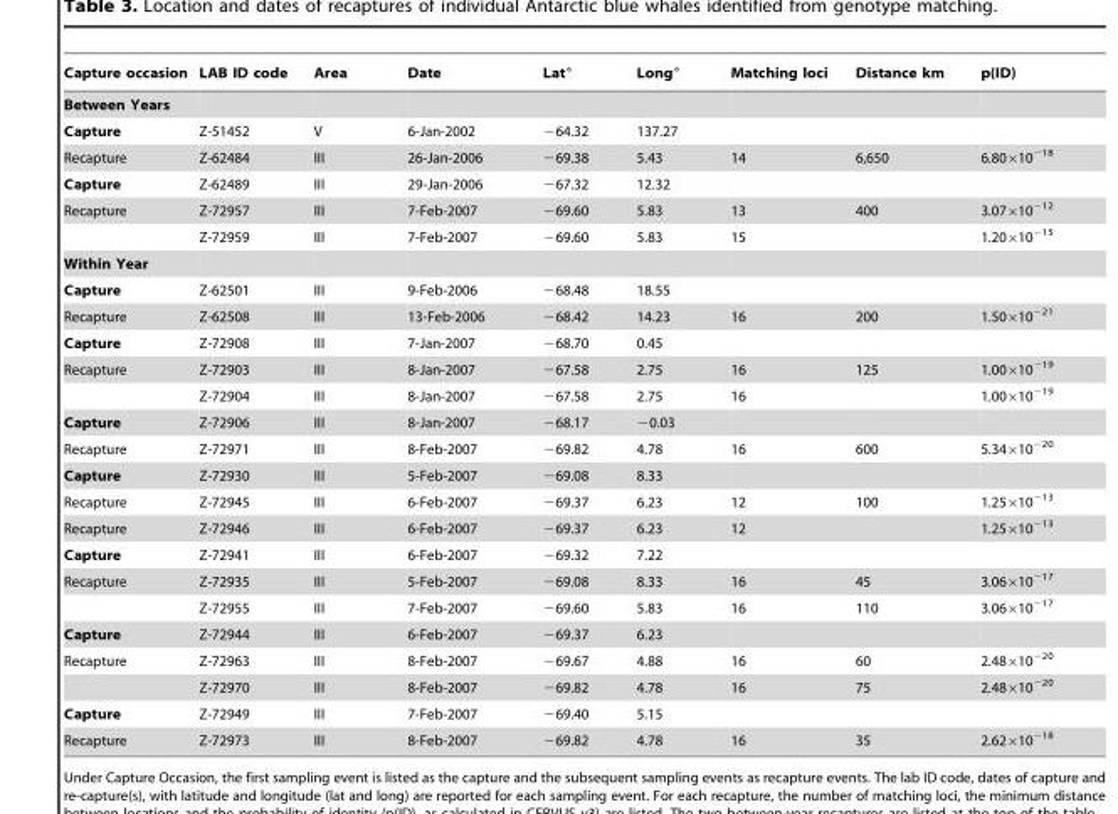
<table><thead><tr><td>Capture occasion</td><td>LAB ID code</td><td>Area</td><td>Date</td><td>Lat°</td><td>Long°</td><td>Matching loci</td><td>Distance km</td><td>p(ID)</td></tr></thead><tbody><tr><td colspan="9">Between Years</td></tr><tr><td>Capture</td><td>Z-51452</td><td>V</td><td>6-Jan-2002</td><td>−64.32</td><td>137.27</td><td></td><td></td><td></td></tr><tr><td>Recapture</td><td>Z-62484</td><td>III</td><td>26-Jan-2006</td><td>−69.38</td><td>5.43</td><td>14</td><td>6,650</td><td>6.80×10<sup>−18</sup></td></tr><tr><td>Capture</td><td>Z-62489</td><td>III</td><td>29-Jan-2006</td><td>−67.32</td><td>12.32</td><td></td><td></td><td></td></tr><tr><td rowspan="2">Recapture</td><td>Z-72957</td><td>III</td><td>7-Feb-2007</td><td>−69.60</td><td>5.83</td><td>13</td><td>400</td><td>3.07×10<sup>−12</sup></td></tr><tr><td>Z-72959</td><td>III</td><td>7-Feb-2007</td><td>−69.60</td><td>5.83</td><td>15</td><td></td><td>1.20×10<sup>−15</sup></td></tr><tr><td colspan="9">Within Year</td></tr><tr><td>Capture</td><td>Z-62501</td><td>III</td><td>9-Feb-2006</td><td>−68.48</td><td>18.55</td><td></td><td></td><td></td></tr><tr><td>Recapture</td><td>Z-62508</td><td>III</td><td>13-Feb-2006</td><td>−68.42</td><td>14.23</td><td>16</td><td>200</td><td>1.50×10<sup>−21</sup></td></tr><tr><td>Capture</td><td>Z-72908</td><td>III</td><td>7-Jan-2007</td><td>−68.70</td><td>0.45</td><td></td><td></td><td></td></tr><tr><td rowspan="2">Recapture</td><td>Z-72903</td><td>III</td><td>8-Jan-2007</td><td>−67.58</td><td>2.75</td><td>16</td><td>125</td><td>1.00×10<sup>−19</sup></td></tr><tr><td>Z-72904</td><td>III</td><td>8-Jan-2007</td><td>−67.58</td><td>2.75</td><td>16</td><td></td><td>1.00×10<sup>−19</sup></td></tr><tr><td>Capture</td><td>Z-72906</td><td>III</td><td>8-Jan-2007</td><td>−68.17</td><td>−0.03</td><td></td><td></td><td></td></tr><tr><td>Recapture</td><td>Z-72971</td><td>III</td><td>8-Feb-2007</td><td>−69.82</td><td>4.78</td><td>16</td><td>600</td><td>5.34×10<sup>−20</sup></td></tr><tr><td>Capture</td><td>Z-72930</td><td>III</td><td>5-Feb-2007</td><td>−69.08</td><td>8.33</td><td></td><td></td><td></td></tr><tr><td>Recapture</td><td>Z-72945</td><td>III</td><td>6-Feb-2007</td><td>−69.37</td><td>6.23</td><td>12</td><td>100</td><td>1.25×10<sup>−13</sup></td></tr><tr><td>Recapture</td><td>Z-72946</td><td>III</td><td>6-Feb-2007</td><td>−69.37</td><td>6.23</td><td>12</td><td></td><td>1.25×10<sup>−13</sup></td></tr><tr><td>Capture</td><td>Z-72941</td><td>III</td><td>6-Feb-2007</td><td>−69.32</td><td>7.22</td><td></td><td></td><td></td></tr><tr><td rowspan="2">Recapture</td><td>Z-72935</td><td>III</td><td>5-Feb-2007</td><td>−69.08</td><td>8.33</td><td>16</td><td>45</td><td>3.06×10<sup>−17</sup></td></tr><tr><td>Z-72955</td><td>III</td><td>7-Feb-2007</td><td>−69.60</td><td>5.83</td><td>16</td><td>110</td><td>3.06×10<sup>−17</sup></td></tr><tr><td>Capture</td><td>Z-72944</td><td>III</td><td>6-Feb-2007</td><td>−69.37</td><td>6.23</td><td></td><td></td><td></td></tr><tr><td rowspan="2">Recapture</td><td>Z-72963</td><td>III</td><td>8-Feb-2007</td><td>−69.67</td><td>4.88</td><td>16</td><td>60</td><td>2.48×10<sup>−20</sup></td></tr><tr><td>Z-72970</td><td>III</td><td>8-Feb-2007</td><td>−69.82</td><td>4.78</td><td>16</td><td>75</td><td>2.48×10<sup>−20</sup></td></tr><tr><td>Capture</td><td>Z-72949</td><td>III</td><td>7-Feb-2007</td><td>−69.40</td><td>5.15</td><td></td><td></td><td></td></tr><tr><td>Recapture</td><td>Z-72973</td><td>III</td><td>8-Feb-2007</td><td>−69.82</td><td>4.78</td><td>16</td><td>35</td><td>2.62×10<sup>−18</sup></td></tr></tbody></table>